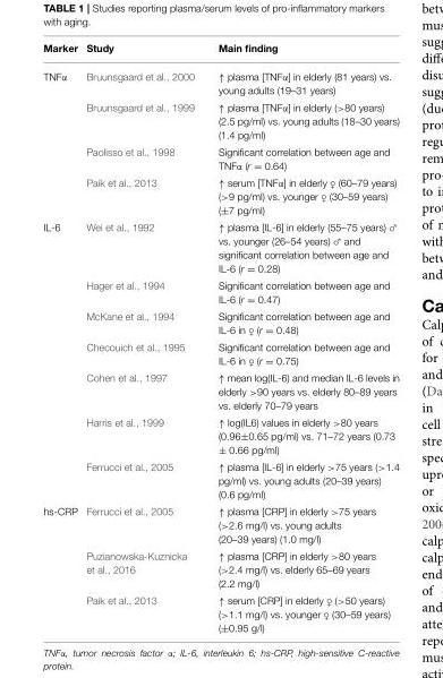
<table><thead><tr><td>Marker</td><td>Study</td><td>Main finding</td></tr></thead><tbody><tr><td rowspan="4">TNFα</td><td>Bruunsgaard et al., 2000</td><td>↑ plasma [TNFα] in elderly (81 years) vs. young adults (19–31 years)</td></tr><tr><td>Bruunsgaard et al., 1999</td><td>↑ plasma [TNFα] in elderly (&gt;80 years) (2.5 pg/ml) vs. young adults (18–30 years) (1.4 pg/ml)</td></tr><tr><td>Paolisso et al., 1998</td><td>Significant correlation between age and TNFα (r = 0.64)</td></tr><tr><td>Paik et al., 2013</td><td>↑ serum [TNFα] in elderly ♀ (60–79 years) (&gt;9 pg/ml) vs. younger ♀ (30–59 years) (±7 pg/ml)</td></tr><tr><td rowspan="7">IL-6</td><td>Wei et al., 1992</td><td>↑ plasma [IL-6] in elderly (55–75 years) ♂ vs. younger (26–54 years) ♂ and significant correlation between age and IL-6 (r = 0.28)</td></tr><tr><td>Hager et al., 1994</td><td>Significant correlation between age and IL-6 (r = 0.47)</td></tr><tr><td>McKane et al., 1994</td><td>Significant correlation between age and IL-6 in ♀ (r = 0.48)</td></tr><tr><td>Checouich et al., 1995</td><td>Significant correlation between age and IL-6 in ♀ (r = 0.75)</td></tr><tr><td>Cohen et al., 1997</td><td>↑ mean log(IL-6) and median IL-6 levels in elderly &gt;90 years vs. elderly 80–89 years vs. elderly 70–79 years</td></tr><tr><td>Harris et al., 1999</td><td>↑ log(IL6) values in elderly &gt;80 years (0.96±0.65 pg/ml) vs. 71–72 years (0.73 ± 0.66 pg/ml)</td></tr><tr><td>Ferrucci et al., 2005</td><td>↑ plasma [IL-6] in elderly &gt;75 years (&gt;1.4 pg/ml) vs. young adults (20–39 years) (0.6 pg/ml)</td></tr><tr><td rowspan="3">hs-CRP</td><td>Ferrucci et al., 2005</td><td>↑ plasma [CRP] in elderly &gt;75 years (&gt;2.6 mg/l) vs. young adults (20–39 years) (1.0 mg/l)</td></tr><tr><td>Puzianowska-Kuznicka et al., 2016</td><td>↑ plasma [CRP] in elderly &gt;80 years (&gt;2.4 mg/l) vs. elderly 65–69 years (2.2 mg/l)</td></tr><tr><td>Paik et al., 2013</td><td>↑ serum [CRP] in elderly ♀ (&gt;50 years) (&gt;1.1 mg/l) vs. younger ♀ (30–59 years) (±0.95 g/l)</td></tr></tbody></table>